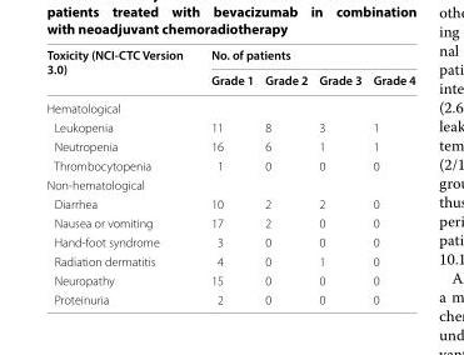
<table><thead><tr><td rowspan="2">Toxicity (NCI‑CTC Version 3.0)</td><td colspan="4">No. of patients</td></tr><tr><td>Grade 1</td><td>Grade 2</td><td>Grade 3</td><td>Grade 4</td></tr></thead><tbody><tr><td colspan="5">Hematological</td></tr><tr><td>Leukopenia</td><td>11</td><td>8</td><td>3</td><td>1</td></tr><tr><td>Neutropenia</td><td>16</td><td>6</td><td>1</td><td>1</td></tr><tr><td>Thrombocytopenia</td><td>1</td><td>0</td><td>0</td><td>0</td></tr><tr><td colspan="5">Non‑hematological</td></tr><tr><td>Diarrhea</td><td>10</td><td>2</td><td>2</td><td>0</td></tr><tr><td>Nausea or vomiting</td><td>17</td><td>2</td><td>0</td><td>0</td></tr><tr><td>Hand‑foot syndrome</td><td>3</td><td>0</td><td>0</td><td>0</td></tr><tr><td>Radiation dermatitis</td><td>4</td><td>0</td><td>1</td><td>0</td></tr><tr><td>Neuropathy</td><td>15</td><td>0</td><td>0</td><td>0</td></tr><tr><td>Proteinuria</td><td>2</td><td>0</td><td>0</td><td>0</td></tr></tbody></table>